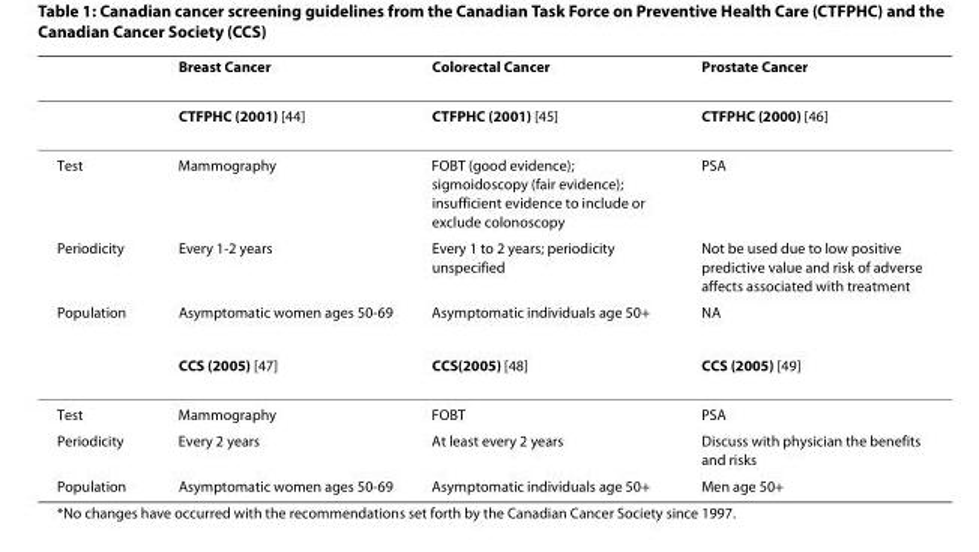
<table><thead><tr><td></td><td>Breast Cancer</td><td>Colorectal Cancer</td><td>Prostate Cancer</td></tr></thead><tbody><tr><td></td><td>CTFPHC (2001) [44]</td><td>CTFPHC (2001) [45]</td><td>CTFPHC (2000) [46]</td></tr><tr><td>Test</td><td>Mammography</td><td>FOBT (good evidence); sigmoidoscopy (fair evidence); insufficient evidence to include or exclude colonoscopy</td><td>PSA</td></tr><tr><td>Periodicity</td><td>Every 1-2 years</td><td>Every 1 to 2 years; periodicity unspecified</td><td>Not be used due to low positive predictive value and risk of adverse affects associated with treatment</td></tr><tr><td rowspan="2">Population</td><td>Asymptomatic women ages 50-69</td><td>Asymptomatic individuals age 50+</td><td>NA</td></tr><tr><td>CCS (2005) [47]</td><td>CCS(2005) [48]</td><td>CCS (2005) [49]</td></tr><tr><td>Test</td><td>Mammography</td><td>FOBT</td><td>PSA</td></tr><tr><td>Periodicity</td><td>Every 2 years</td><td>At least every 2 years</td><td>Discuss with physician the benefits and risks</td></tr><tr><td>Population</td><td>Asymptomatic women ages 50-69</td><td>Asymptomatic individuals age 50+</td><td>Men age 50+</td></tr></tbody></table>